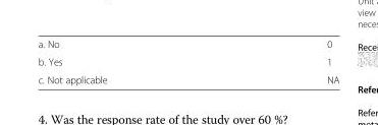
<table><tbody><tr><td>a. No</td><td>0</td></tr><tr><td>b. Yes</td><td>1</td></tr><tr><td>c. Not applicable</td><td>NA</td></tr></tbody></table>